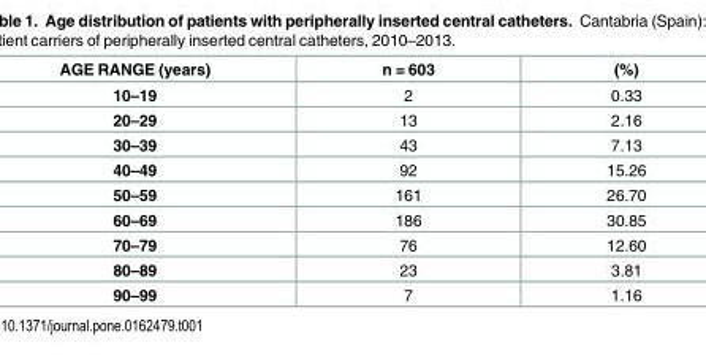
<table><thead><tr><td>AGE RANGE (years)</td><td>n = 603</td><td>(%)</td></tr></thead><tbody><tr><td>10–19</td><td>2</td><td>0.33</td></tr><tr><td>20–29</td><td>13</td><td>2.16</td></tr><tr><td>30–39</td><td>43</td><td>7.13</td></tr><tr><td>40–49</td><td>92</td><td>15.26</td></tr><tr><td>50–59</td><td>161</td><td>26.70</td></tr><tr><td>60–69</td><td>186</td><td>30.85</td></tr><tr><td>70–79</td><td>76</td><td>12.60</td></tr><tr><td>80–89</td><td>23</td><td>3.81</td></tr><tr><td>90–99</td><td>7</td><td>1.16</td></tr></tbody></table>